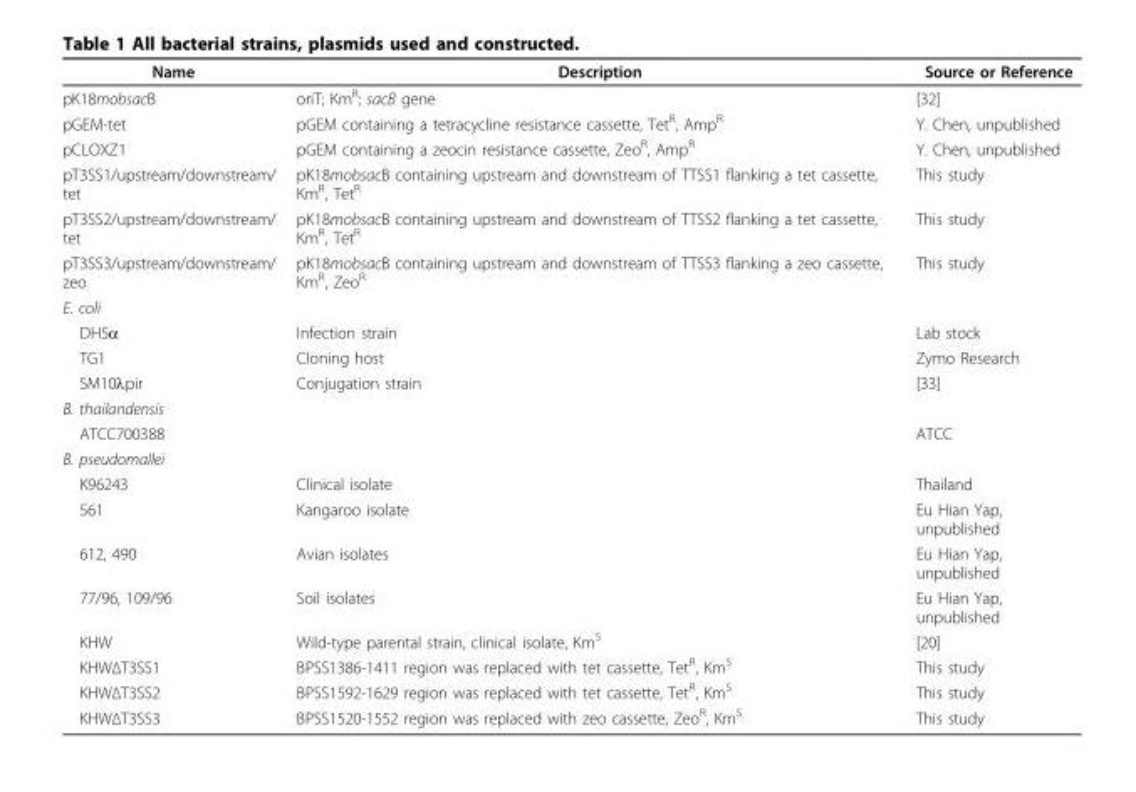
<table><thead><tr><td>Name</td><td>Description</td><td>Source or Reference</td></tr></thead><tbody><tr><td>pK18mobsacB</td><td>oriT; Km<sup>R</sup>; sacB gene</td><td>[32]</td></tr><tr><td>pGEM-tet</td><td>pGEM containing a tetracycline resistance cassette, Tet<sup>R</sup>, Amp<sup>R</sup></td><td>Y. Chen, unpublished</td></tr><tr><td>pCLOXZ1</td><td>pGEM containing a zeocin resistance cassette, Zeo<sup>R</sup>, Amp<sup>R</sup></td><td>Y. Chen, unpublished</td></tr><tr><td>pT3SS1/upstream/downstream/ tet</td><td>pK18mobsacB containing upstream and downstream of TTSS1 flanking a tet cassette, Km<sup>R</sup>, Tet<sup>R</sup></td><td>This study</td></tr><tr><td>pT3SS2/upstream/downstream/ tet</td><td>pK18mobsacB containing upstream and downstream of TTSS2 flanking a tet cassette, Km<sup>R</sup>, Tet<sup>R</sup></td><td>This study</td></tr><tr><td>pT3SS3/upstream/downstream/ zeo</td><td>pK18mobsacB containing upstream and downstream of TTSS3 flanking a zeo cassette, Km<sup>R</sup>, Zeo<sup>R</sup></td><td>This study</td></tr><tr><td colspan="3">E. coli</td></tr><tr><td>DH5α</td><td>Infection strain</td><td>Lab stock</td></tr><tr><td>TG1</td><td>Cloning host</td><td>Zymo Research</td></tr><tr><td>SM10λpir</td><td>Conjugation strain</td><td>[33]</td></tr><tr><td colspan="3">B. thailandensis</td></tr><tr><td>ATCC700388</td><td></td><td>ATCC</td></tr><tr><td colspan="3">B. pseudomallei</td></tr><tr><td>K96243</td><td>Clinical isolate</td><td>Thailand</td></tr><tr><td>561</td><td>Kangaroo isolate</td><td>Eu Hian Yap, unpublished</td></tr><tr><td>612, 490</td><td>Avian isolates</td><td>Eu Hian Yap, unpublished</td></tr><tr><td>77/96, 109/96</td><td>Soil isolates</td><td>Eu Hian Yap, unpublished</td></tr><tr><td>KHW</td><td>Wild-type parental strain, clinical isolate, Km<sup>S</sup></td><td>[20]</td></tr><tr><td>KHWΔT3SS1</td><td>BPSS1386-1411 region was replaced with tet cassette, Tet<sup>R</sup>, Km<sup>S</sup></td><td>This study</td></tr><tr><td>KHWΔT3SS2</td><td>BPSS1592-1629 region was replaced with tet cassette, Tet<sup>R</sup>, Km<sup>S</sup></td><td>This study</td></tr><tr><td>KHWΔT3SS3</td><td>BPSS1520-1552 region was replaced with zeo cassette, Zeo<sup>R</sup>, Km<sup>S</sup></td><td>This study</td></tr></tbody></table>